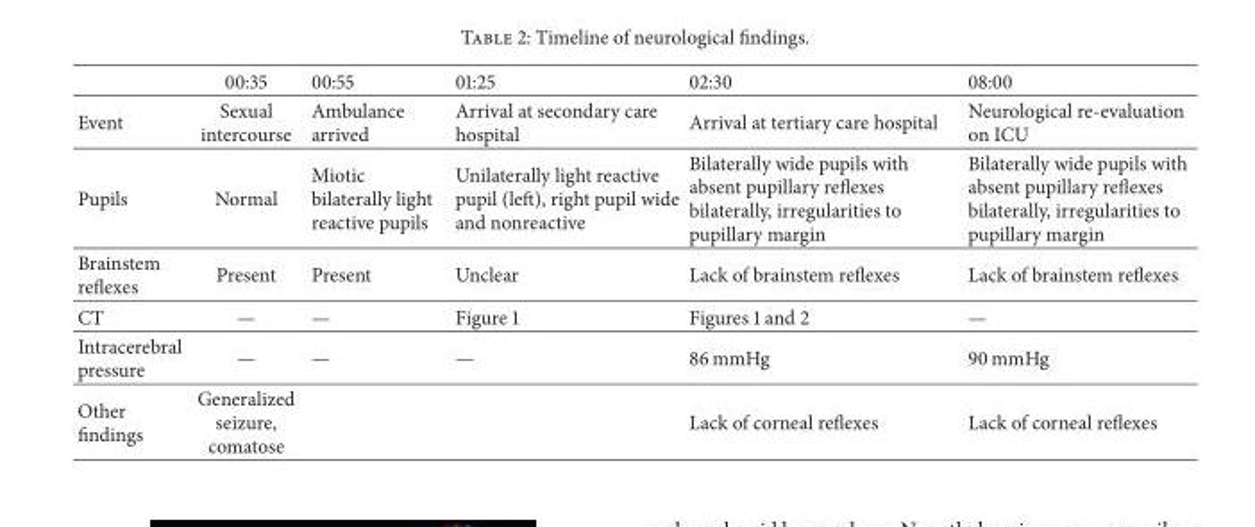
<table><thead><tr><td></td><td>00:35</td><td>00:55</td><td>01:25</td><td>02:30</td><td>08:00</td></tr></thead><tbody><tr><td>Event</td><td>Sexual intercourse</td><td>Ambulance arrived</td><td>Arrival at secondary care hospital</td><td>Arrival at tertiary care hospital</td><td>Neurological re-evaluation on ICU</td></tr><tr><td>Pupils</td><td>Normal</td><td>Miotic bilaterally light reactive pupils</td><td>Unilaterally light reactive pupil (left), right pupil wide and nonreactive</td><td>Bilaterally wide pupils with absent pupillary reflexes bilaterally, irregularities to pupillary margin</td><td>Bilaterally wide pupils with absent pupillary reflexes bilaterally, irregularities to pupillary margin</td></tr><tr><td>Brainstem reflexes</td><td>Present</td><td>Present</td><td>Unclear</td><td>Lack of brainstem reflexes</td><td>Lack of brainstem reflexes</td></tr><tr><td>CT</td><td>—</td><td>—</td><td>Figure 1</td><td>Figures 1 and 2</td><td>—</td></tr><tr><td>Intracerebral pressure</td><td>—</td><td>—</td><td>—</td><td>86 mmHg</td><td>90 mmHg</td></tr><tr><td>Other findings</td><td>Generalized seizure, comatose</td><td></td><td></td><td>Lack of corneal reflexes</td><td>Lack of corneal reflexes</td></tr></tbody></table>